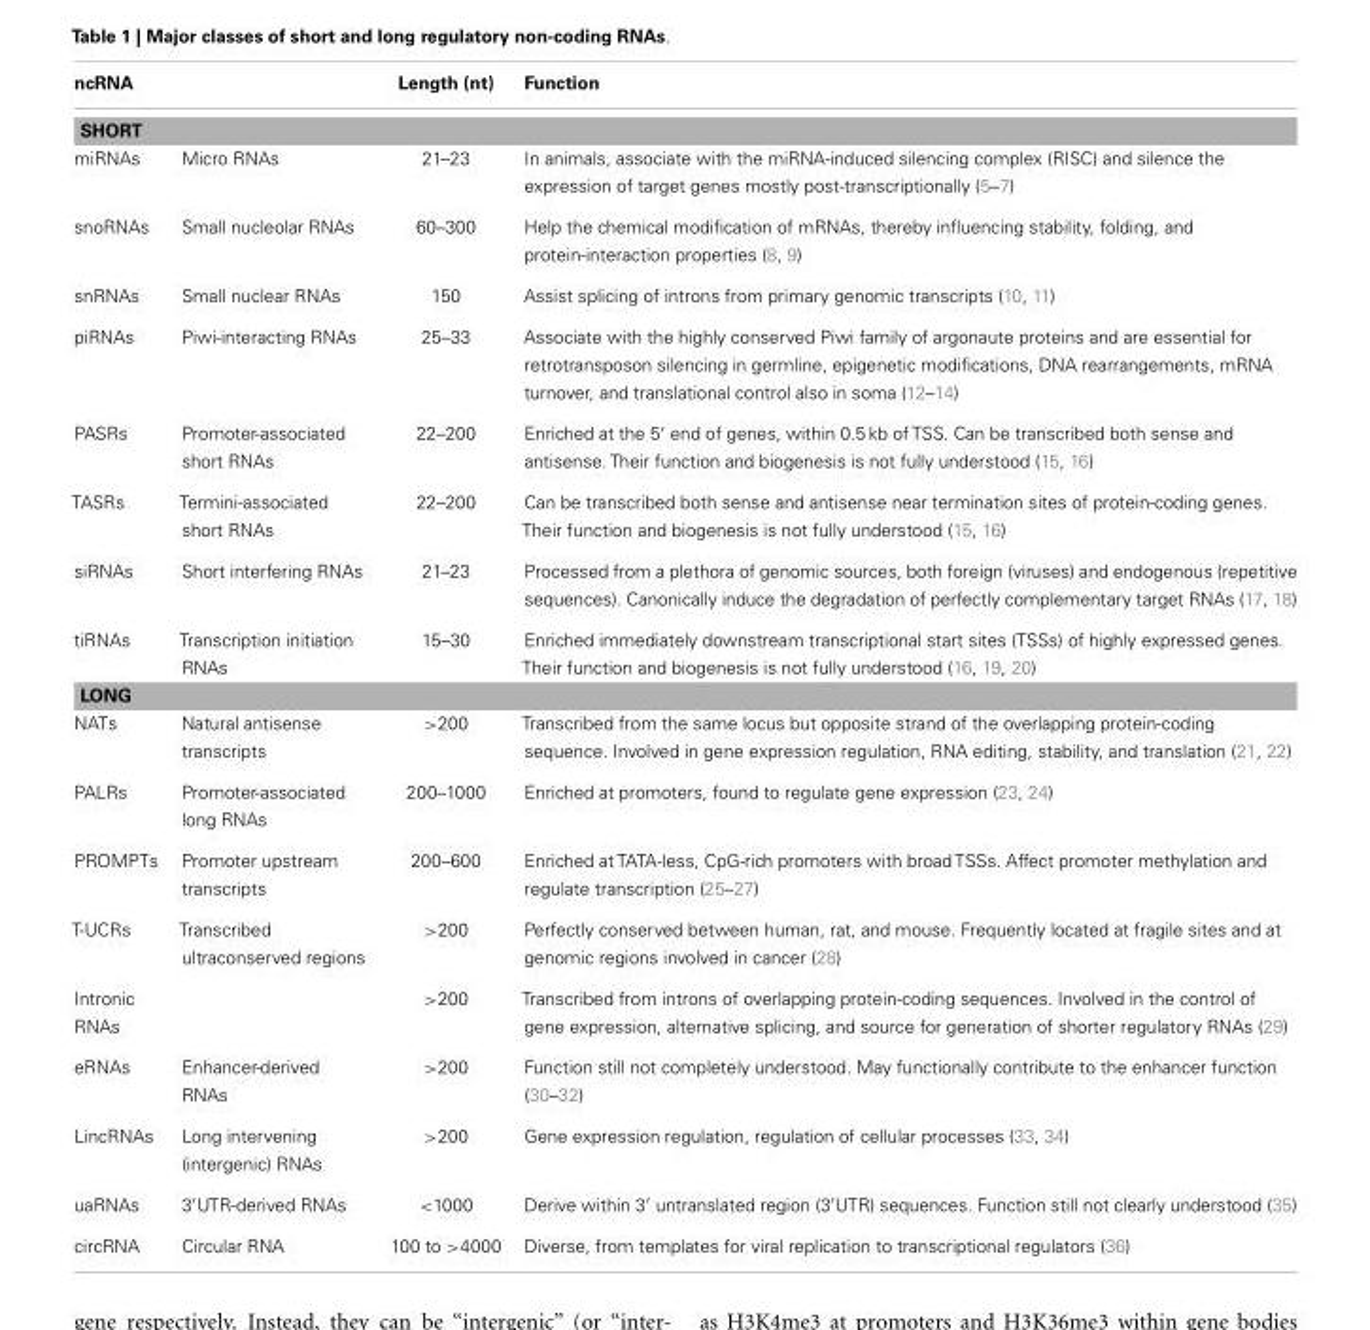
<table><thead><tr><td>ncRNA</td><td></td><td>Length (nt)</td><td>Function</td></tr></thead><tbody><tr><td colspan="4">SHORT</td></tr><tr><td>miRNAs</td><td>Micro RNAs</td><td>21–23</td><td>In animals, associate with the miRNA-induced silencing complex (RISC) and silence the expression of target genes mostly post-transcriptionally (5–7)</td></tr><tr><td>snoRNAs</td><td>Small nucleolar RNAs</td><td>60–300</td><td>Help the chemical modification of mRNAs, thereby influencing stability, folding, and protein-interaction properties (8, 9)</td></tr><tr><td>snRNAs</td><td>Small nuclear RNAs</td><td>150</td><td>Assist splicing of introns from primary genomic transcripts (10, 11)</td></tr><tr><td>piRNAs</td><td>Piwi-interacting RNAs</td><td>25–33</td><td>Associate with the highly conserved Piwi family of argonaute proteins and are essential for retrotransposon silencing in germline, epigenetic modifications, DNA rearrangements, mRNA turnover, and translational control also in soma (12–14)</td></tr><tr><td>PASRs</td><td>Promoter-associated short RNAs</td><td>22–200</td><td>Enriched at the 5′ end of genes, within 0.5 kb of TSS. Can be transcribed both sense and antisense. Their function and biogenesis is not fully understood (15, 16)</td></tr><tr><td>TASRs</td><td>Termini-associated short RNAs</td><td>22–200</td><td>Can be transcribed both sense and antisense near termination sites of protein-coding genes. Their function and biogenesis is not fully understood (15, 16)</td></tr><tr><td>siRNAs</td><td>Short interfering RNAs</td><td>21–23</td><td>Processed from a plethora of genomic sources, both foreign (viruses) and endogenous (repetitive sequences). Canonically induce the degradation of perfectly complementary target RNAs (17, 18)</td></tr><tr><td>tiRNAs</td><td>Transcription initiation RNAs</td><td>15–30</td><td>Enriched immediately downstream transcriptional start sites (TSSs) of highly expressed genes. Their function and biogenesis is not fully understood (16, 19, 20)</td></tr><tr><td colspan="4">LONG</td></tr><tr><td>NATs</td><td>Natural antisense transcripts</td><td>&gt;200</td><td>Transcribed from the same locus but opposite strand of the overlapping protein-coding sequence. Involved in gene expression regulation, RNA editing, stability, and translation (21, 22)</td></tr><tr><td>PALRs</td><td>Promoter-associated long RNAs</td><td>200–1000</td><td>Enriched at promoters, found to regulate gene expression (23, 24)</td></tr><tr><td>PROMPTs</td><td>Promoter upstream transcripts</td><td>200–600</td><td>Enriched at TATA-less, CpG-rich promoters with broad TSSs. Affect promoter methylation and regulate transcription (25–27)</td></tr><tr><td>T-UCRs</td><td>Transcribed ultraconserved regions</td><td>&gt;200</td><td>Perfectly conserved between human, rat, and mouse. Frequently located at fragile sites and at genomic regions involved in cancer (28)</td></tr><tr><td>Intronic RNAs</td><td></td><td>&gt;200</td><td>Transcribed from introns of overlapping protein-coding sequences. Involved in the control of gene expression, alternative splicing, and source for generation of shorter regulatory RNAs (29)</td></tr><tr><td>eRNAs</td><td>Enhancer-derived RNAs</td><td>&gt;200</td><td>Function still not completely understood. May functionally contribute to the enhancer function (30–32)</td></tr><tr><td>LincRNAs</td><td>Long intervening (intergenic) RNAs</td><td>&gt;200</td><td>Gene expression regulation, regulation of cellular processes (33, 34)</td></tr><tr><td>uaRNAs</td><td>3′UTR-derived RNAs</td><td>&lt;1000</td><td>Derive within 3′ untranslated region (3′UTR) sequences. Function still not clearly understood (35)</td></tr><tr><td>circRNA</td><td>Circular RNA</td><td>100 to &gt;4000</td><td>Diverse, from templates for viral replication to transcriptional regulators (36)</td></tr></tbody></table>